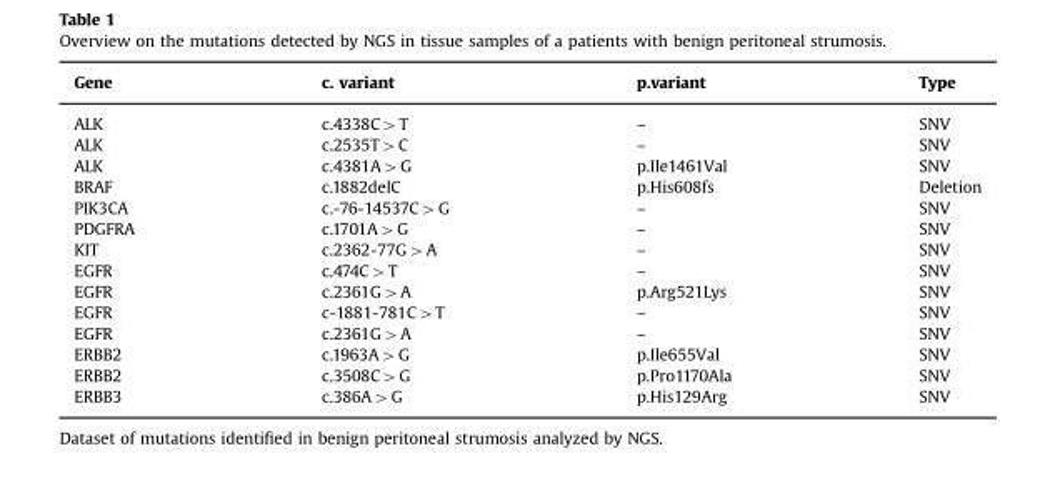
<table><thead><tr><td>Gene</td><td>c. variant</td><td>p.variant</td><td>Type</td></tr></thead><tbody><tr><td>ALK</td><td>c.4338C&gt;T</td><td>–</td><td>SNV</td></tr><tr><td>ALK</td><td>c.2535T&gt;C</td><td>–</td><td>SNV</td></tr><tr><td>ALK</td><td>c.4381A&gt;G</td><td>p.Ile1461Val</td><td>SNV</td></tr><tr><td>BRAF</td><td>c.1882delC</td><td>p.His608fs</td><td>Deletion</td></tr><tr><td>PIK3CA</td><td>c.-76-14537C&gt;G</td><td>–</td><td>SNV</td></tr><tr><td>PDGFRA</td><td>c.1701A&gt;G</td><td>–</td><td>SNV</td></tr><tr><td>KIT</td><td>c.2362-77G&gt;A</td><td>–</td><td>SNV</td></tr><tr><td>EGFR</td><td>c.474C&gt;T</td><td>–</td><td>SNV</td></tr><tr><td>EGFR</td><td>c.2361G&gt;A</td><td>p.Arg521Lys</td><td>SNV</td></tr><tr><td>EGFR</td><td>c-1881-781C&gt;T</td><td>–</td><td>SNV</td></tr><tr><td>EGFR</td><td>c.2361G&gt;A</td><td>–</td><td>SNV</td></tr><tr><td>ERBB2</td><td>c.1963A&gt;G</td><td>p.Ile655Val</td><td>SNV</td></tr><tr><td>ERBB2</td><td>c.3508C&gt;G</td><td>p.Pro1170Ala</td><td>SNV</td></tr><tr><td>ERBB3</td><td>c.386A&gt;G</td><td>p.His129Arg</td><td>SNV</td></tr></tbody></table>